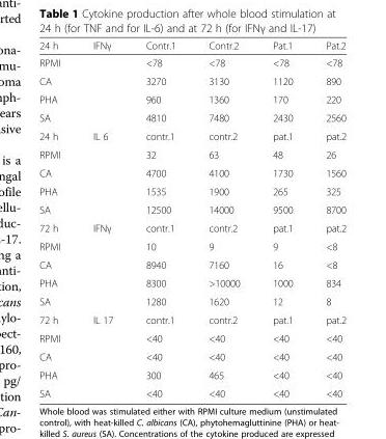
<table><thead><tr><td>24 h</td><td>IFNγ</td><td>Contr.1</td><td>Contr.2</td><td>Pat.1</td><td>Pat.2</td></tr></thead><tbody><tr><td>RPMI</td><td></td><td>&lt;78</td><td>&lt;78</td><td>&lt;78</td><td>&lt;78</td></tr><tr><td>CA</td><td></td><td>3270</td><td>3130</td><td>1120</td><td>890</td></tr><tr><td>PHA</td><td></td><td>960</td><td>1360</td><td>170</td><td>220</td></tr><tr><td>SA</td><td></td><td>4810</td><td>7480</td><td>2430</td><td>2560</td></tr><tr><td>24 h</td><td>IL 6</td><td>contr.1</td><td>contr.2</td><td>pat.1</td><td>pat.2</td></tr><tr><td>RPMI</td><td></td><td>32</td><td>63</td><td>48</td><td>26</td></tr><tr><td>CA</td><td></td><td>4700</td><td>4100</td><td>1730</td><td>1560</td></tr><tr><td>PHA</td><td></td><td>1535</td><td>1900</td><td>265</td><td>325</td></tr><tr><td>SA</td><td></td><td>12500</td><td>14000</td><td>9500</td><td>8700</td></tr><tr><td>72 h</td><td>IFNγ</td><td>contr.1</td><td>contr.2</td><td>pat.1</td><td>pat.2</td></tr><tr><td>RPMI</td><td></td><td>10</td><td>9</td><td>9</td><td>&lt;8</td></tr><tr><td>CA</td><td></td><td>8940</td><td>7160</td><td>16</td><td>&lt;8</td></tr><tr><td>PHA</td><td></td><td>8300</td><td>&gt;10000</td><td>1000</td><td>834</td></tr><tr><td>SA</td><td></td><td>1280</td><td>1620</td><td>12</td><td>8</td></tr><tr><td>72 h</td><td>IL 17</td><td>contr.1</td><td>contr.2</td><td>pat.1</td><td>pat.2</td></tr><tr><td>RPMI</td><td></td><td>&lt;40</td><td>&lt;40</td><td>&lt;40</td><td>&lt;40</td></tr><tr><td>CA</td><td></td><td>&lt;40</td><td>&lt;40</td><td>&lt;40</td><td>&lt;40</td></tr><tr><td>PHA</td><td></td><td>300</td><td>465</td><td>&lt;40</td><td>&lt;40</td></tr><tr><td>SA</td><td></td><td>&lt;40</td><td>&lt;40</td><td>&lt;40</td><td>&lt;40</td></tr></tbody></table>